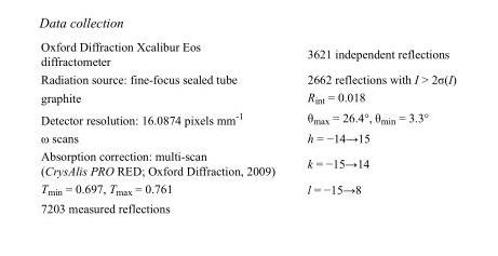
<table><tbody><tr><td>Oxford Diffraction Xcalibur Eos diffractometer</td><td>3621 independent reflections</td></tr><tr><td>Radiation source: fine-focus sealed tube</td><td>2662 reflections with I &gt; 2σ(I)</td></tr><tr><td>graphite</td><td>R<sub>int</sub> = 0.018</td></tr><tr><td>Detector resolution: 16.0874 pixels mm<sup>-1</sup></td><td>θ<sub>max</sub> = 26.4°, θ<sub>min</sub> = 3.3°</td></tr><tr><td>ω scans</td><td>h = −14→15</td></tr><tr><td>Absorption correction: multi-scan (CrysAlis PRO RED; Oxford Diffraction, 2009)</td><td>k = −15→14</td></tr><tr><td>T<sub>min</sub> = 0.697, T<sub>max</sub> = 0.761</td><td>l = −15→8</td></tr><tr><td>7203 measured reflections</td><td></td></tr></tbody></table>